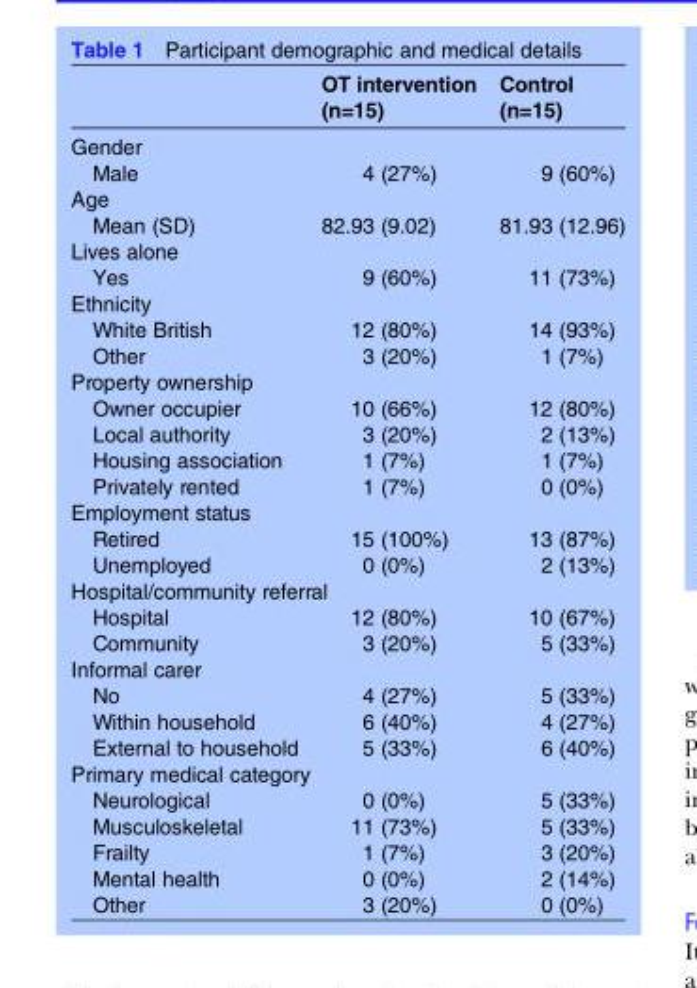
<table><thead><tr><td></td><td>OT intervention (n=15)</td><td>Control (n=15)</td></tr></thead><tbody><tr><td colspan="3">Gender</td></tr><tr><td>Male</td><td>4 (27%)</td><td>9 (60%)</td></tr><tr><td colspan="3">Age</td></tr><tr><td>Mean (SD)</td><td>82.93 (9.02)</td><td>81.93 (12.96)</td></tr><tr><td colspan="3">Lives alone</td></tr><tr><td>Yes</td><td>9 (60%)</td><td>11 (73%)</td></tr><tr><td colspan="3">Ethnicity</td></tr><tr><td>White British</td><td>12 (80%)</td><td>14 (93%)</td></tr><tr><td>Other</td><td>3 (20%)</td><td>1 (7%)</td></tr><tr><td colspan="3">Property ownership</td></tr><tr><td>Owner occupier</td><td>10 (66%)</td><td>12 (80%)</td></tr><tr><td>Local authority</td><td>3 (20%)</td><td>2 (13%)</td></tr><tr><td>Housing association</td><td>1 (7%)</td><td>1 (7%)</td></tr><tr><td>Privately rented</td><td>1 (7%)</td><td>0 (0%)</td></tr><tr><td colspan="3">Employment status</td></tr><tr><td>Retired</td><td>15 (100%)</td><td>13 (87%)</td></tr><tr><td>Unemployed</td><td>0 (0%)</td><td>2 (13%)</td></tr><tr><td colspan="3">Hospital/community referral</td></tr><tr><td>Hospital</td><td>12 (80%)</td><td>10 (67%)</td></tr><tr><td>Community</td><td>3 (20%)</td><td>5 (33%)</td></tr><tr><td colspan="3">Informal carer</td></tr><tr><td>No</td><td>4 (27%)</td><td>5 (33%)</td></tr><tr><td>Within household</td><td>6 (40%)</td><td>4 (27%)</td></tr><tr><td>External to household</td><td>5 (33%)</td><td>6 (40%)</td></tr><tr><td colspan="3">Primary medical category</td></tr><tr><td>Neurological</td><td>0 (0%)</td><td>5 (33%)</td></tr><tr><td>Musculoskeletal</td><td>11 (73%)</td><td>5 (33%)</td></tr><tr><td>Frailty</td><td>1 (7%)</td><td>3 (20%)</td></tr><tr><td>Mental health</td><td>0 (0%)</td><td>2 (14%)</td></tr><tr><td>Other</td><td>3 (20%)</td><td>0 (0%)</td></tr></tbody></table>